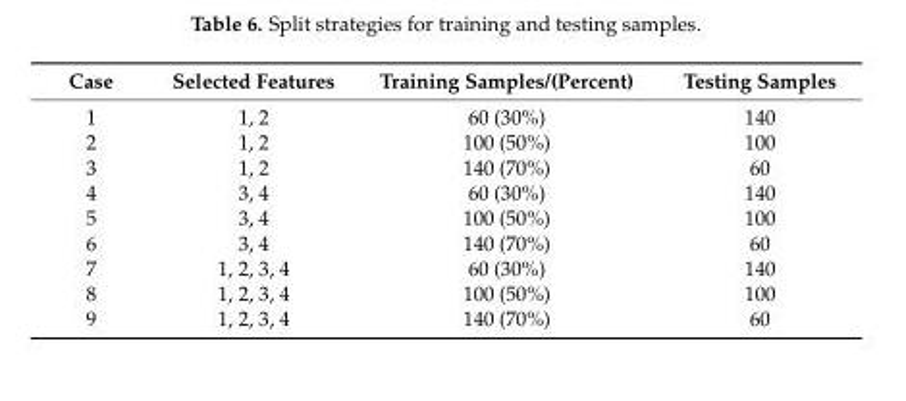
<table><thead><tr><td>Case</td><td>Selected Features</td><td>Training Samples/(Percent)</td><td>Testing Samples</td></tr></thead><tbody><tr><td>1</td><td>1, 2</td><td>60 (30%)</td><td>140</td></tr><tr><td>2</td><td>1, 2</td><td>100 (50%)</td><td>100</td></tr><tr><td>3</td><td>1, 2</td><td>140 (70%)</td><td>60</td></tr><tr><td>4</td><td>3, 4</td><td>60 (30%)</td><td>140</td></tr><tr><td>5</td><td>3, 4</td><td>100 (50%)</td><td>100</td></tr><tr><td>6</td><td>3, 4</td><td>140 (70%)</td><td>60</td></tr><tr><td>7</td><td>1, 2, 3, 4</td><td>60 (30%)</td><td>140</td></tr><tr><td>8</td><td>1, 2, 3, 4</td><td>100 (50%)</td><td>100</td></tr><tr><td>9</td><td>1, 2, 3, 4</td><td>140 (70%)</td><td>60</td></tr></tbody></table>